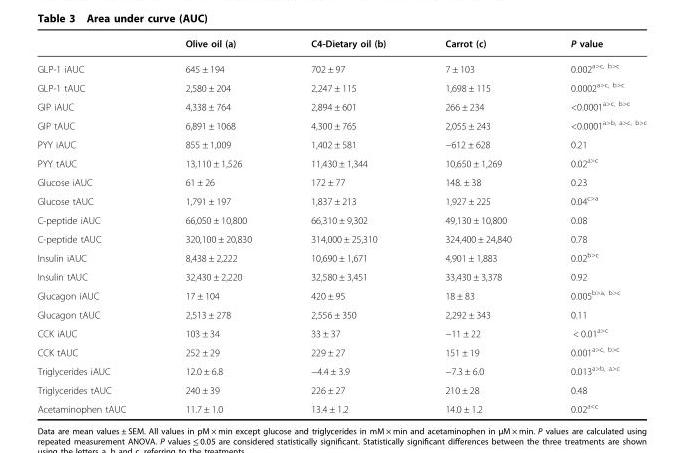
<table><thead><tr><td></td><td>Olive oil (a)</td><td>C4-Dietary oil (b)</td><td>Carrot (c)</td><td>P value</td></tr></thead><tbody><tr><td>GLP-1 iAUC</td><td>645 ± 194</td><td>702 ± 97</td><td>7 ± 103</td><td>0.002<sup>a&gt;c, b&gt;c</sup></td></tr><tr><td>GLP-1 tAUC</td><td>2,580 ± 204</td><td>2,247 ± 115</td><td>1,698 ± 115</td><td>0.0002<sup>a&gt;c, b&gt;c</sup></td></tr><tr><td>GIP iAUC</td><td>4,338 ± 764</td><td>2,894 ± 601</td><td>266 ± 234</td><td>&lt;0.0001<sup>a&gt;c, b&gt;c</sup></td></tr><tr><td>GIP tAUC</td><td>6,891 ± 1068</td><td>4,300 ± 765</td><td>2,055 ± 243</td><td>&lt;0.0001<sup>a&gt;b, a&gt;c, b&gt;c</sup></td></tr><tr><td>PYY iAUC</td><td>855 ± 1,009</td><td>1,402 ± 581</td><td>−612 ± 628</td><td>0.21</td></tr><tr><td>PYY tAUC</td><td>13,110 ± 1,526</td><td>11,430 ± 1,344</td><td>10,650 ± 1,269</td><td>0.02<sup>a&gt;c</sup></td></tr><tr><td>Glucose iAUC</td><td>61 ± 26</td><td>172 ± 77</td><td>148. ± 38</td><td>0.23</td></tr><tr><td>Glucose tAUC</td><td>1,791 ± 197</td><td>1,837 ± 213</td><td>1,927 ± 225</td><td>0.04<sup>c&gt;a</sup></td></tr><tr><td>C-peptide iAUC</td><td>66,050 ± 10,800</td><td>66,310 ± 9,302</td><td>49,130 ± 10,800</td><td>0.08</td></tr><tr><td>C-peptide tAUC</td><td>320,100 ± 20,830</td><td>314,000 ± 25,310</td><td>324,400 ± 24,840</td><td>0.78</td></tr><tr><td>Insulin iAUC</td><td>8,438 ± 2,222</td><td>10,690 ± 1,671</td><td>4,901 ± 1,883</td><td>0.02<sup>b&gt;c</sup></td></tr><tr><td>Insulin tAUC</td><td>32,430 ± 2,220</td><td>32,580 ± 3,451</td><td>33,430 ± 3,378</td><td>0.92</td></tr><tr><td>Glucagon iAUC</td><td>17 ± 104</td><td>420 ± 95</td><td>18 ± 83</td><td>0.005<sup>b&gt;a, b&gt;c</sup></td></tr><tr><td>Glucagon tAUC</td><td>2,513 ± 278</td><td>2,556 ± 350</td><td>2,292 ± 343</td><td>0.11</td></tr><tr><td>CCK iAUC</td><td>103 ± 34</td><td>33 ± 37</td><td>−11 ± 22</td><td>&lt; 0.01<sup>a&gt;c</sup></td></tr><tr><td>CCK tAUC</td><td>252 ± 29</td><td>229 ± 27</td><td>151 ± 19</td><td>0.001<sup>a&gt;c, b&gt;c</sup></td></tr><tr><td>Triglycerides iAUC</td><td>12.0 ± 6.8</td><td>−4.4 ± 3.9</td><td>−7.3 ± 6.0</td><td>0.013<sup>a&gt;b, a&gt;c</sup></td></tr><tr><td>Triglycerides tAUC</td><td>240 ± 39</td><td>226 ± 27</td><td>210 ± 28</td><td>0.48</td></tr><tr><td>Acetaminophen tAUC</td><td>11.7 ± 1.0</td><td>13.4 ± 1.2</td><td>14.0 ± 1.2</td><td>0.02<sup>a&lt;c</sup></td></tr></tbody></table>